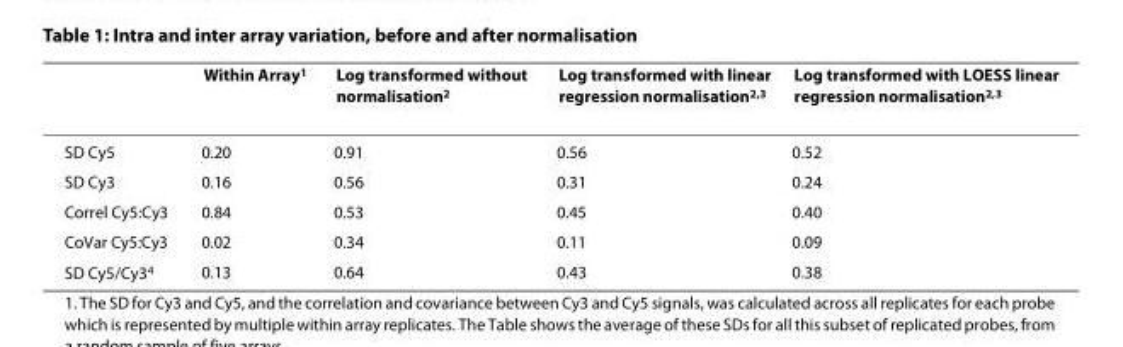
<table><thead><tr><td></td><td>Within Array<sup>1</sup></td><td>Log transformed without normalisation<sup>2</sup></td><td>Log transformed with linear regression normalisation<sup>2,3</sup></td><td>Log transformed with LOESS linear regression normalisation<sup>2,3</sup></td></tr></thead><tbody><tr><td>SD Cy5</td><td>0.20</td><td>0.91</td><td>0.56</td><td>0.52</td></tr><tr><td>SD Cy3</td><td>0.16</td><td>0.56</td><td>0.31</td><td>0.24</td></tr><tr><td>Correl Cy5:Cy3</td><td>0.84</td><td>0.53</td><td>0.45</td><td>0.40</td></tr><tr><td>CoVar Cy5:Cy3</td><td>0.02</td><td>0.34</td><td>0.11</td><td>0.09</td></tr><tr><td>SD Cy5/Cy3<sup>4</sup></td><td>0.13</td><td>0.64</td><td>0.43</td><td>0.38</td></tr></tbody></table>